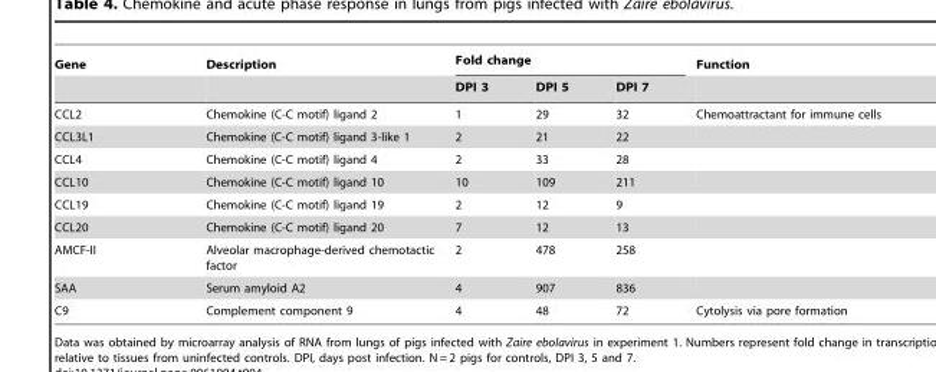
<table><thead><tr><td rowspan="2">Gene</td><td rowspan="2">Description</td><td colspan="3">Fold change</td><td rowspan="2">Function</td></tr><tr><td>DPI 3</td><td>DPI 5</td><td>DPI 7</td></tr></thead><tbody><tr><td>CCL2</td><td>Chemokine (C-C motif) ligand 2</td><td>1</td><td>29</td><td>32</td><td>Chemoattractant for immune cells</td></tr><tr><td>CCL3L1</td><td>Chemokine (C-C motif) ligand 3-like 1</td><td>2</td><td>21</td><td>22</td><td></td></tr><tr><td>CCL4</td><td>Chemokine (C-C motif) ligand 4</td><td>2</td><td>33</td><td>28</td><td></td></tr><tr><td>CCL10</td><td>Chemokine (C-C motif) ligand 10</td><td>10</td><td>109</td><td>211</td><td></td></tr><tr><td>CCL19</td><td>Chemokine (C-C motif) ligand 19</td><td>2</td><td>12</td><td>9</td><td></td></tr><tr><td>CCL20</td><td>Chemokine (C-C motif) ligand 20</td><td>7</td><td>12</td><td>13</td><td></td></tr><tr><td>AMCF-II</td><td>Alveolar macrophage-derived chemotactic factor</td><td>2</td><td>478</td><td>258</td><td></td></tr><tr><td>SAA</td><td>Serum amyloid A2</td><td>4</td><td>907</td><td>836</td><td></td></tr><tr><td>C9</td><td>Complement component 9</td><td>4</td><td>48</td><td>72</td><td>Cytolysis via pore formation</td></tr></tbody></table>